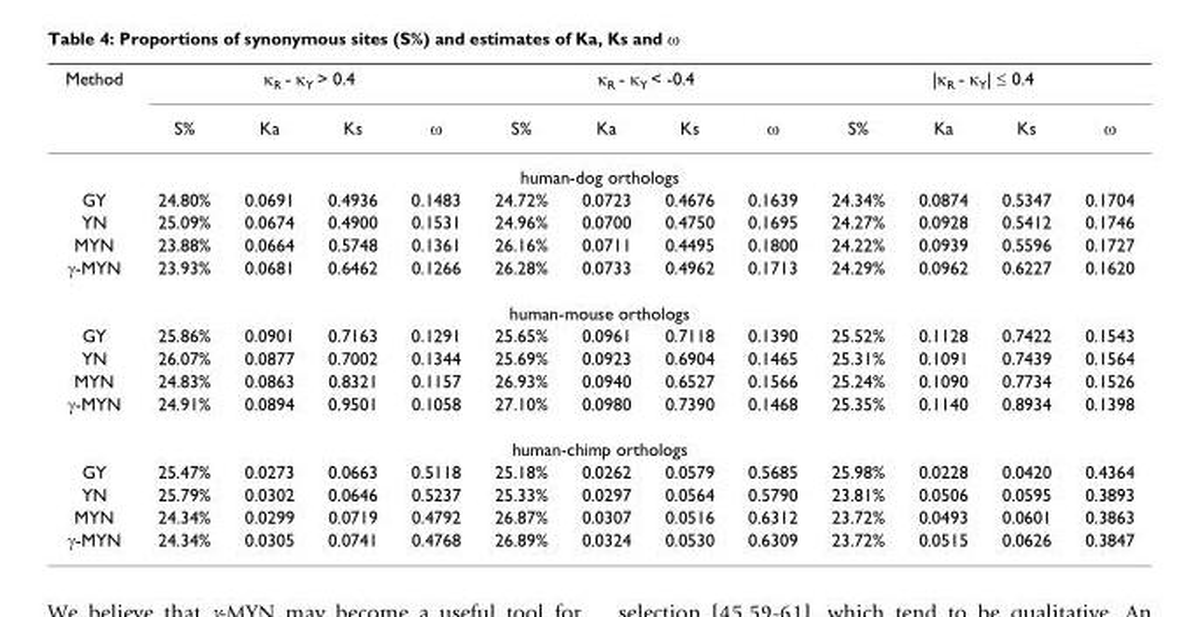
<table><thead><tr><td rowspan="2">Method</td><td colspan="4">κ<sub>R</sub> - κ<sub>Y</sub> &gt; 0.4</td><td colspan="4">κ<sub>R</sub> - κ<sub>Y</sub> &lt; -0.4</td><td colspan="4">|κ<sub>R</sub> - κ<sub>Y</sub>| ≤ 0.4</td></tr><tr><td>S%</td><td>Ka</td><td>Ks</td><td>ω</td><td>S%</td><td>Ka</td><td>Ks</td><td>ω</td><td>S%</td><td>Ka</td><td>Ks</td><td>ω</td></tr></thead><tbody><tr><td colspan="13">human-dog orthologs</td></tr><tr><td>GY</td><td>24.80%</td><td>0.0691</td><td>0.4936</td><td>0.1483</td><td>24.72%</td><td>0.0723</td><td>0.4676</td><td>0.1639</td><td>24.34%</td><td>0.0874</td><td>0.5347</td><td>0.1704</td></tr><tr><td>YN</td><td>25.09%</td><td>0.0674</td><td>0.4900</td><td>0.1531</td><td>24.96%</td><td>0.0700</td><td>0.4750</td><td>0.1695</td><td>24.27%</td><td>0.0928</td><td>0.5412</td><td>0.1746</td></tr><tr><td>MYN</td><td>23.88%</td><td>0.0664</td><td>0.5748</td><td>0.1361</td><td>26.16%</td><td>0.0711</td><td>0.4495</td><td>0.1800</td><td>24.22%</td><td>0.0939</td><td>0.5596</td><td>0.1727</td></tr><tr><td>γ-MYN</td><td>23.93%</td><td>0.0681</td><td>0.6462</td><td>0.1266</td><td>26.28%</td><td>0.0733</td><td>0.4962</td><td>0.1713</td><td>24.29%</td><td>0.0962</td><td>0.6227</td><td>0.1620</td></tr><tr><td colspan="13">human-mouse orthologs</td></tr><tr><td>GY</td><td>25.86%</td><td>0.0901</td><td>0.7163</td><td>0.1291</td><td>25.65%</td><td>0.0961</td><td>0.7118</td><td>0.1390</td><td>25.52%</td><td>0.1128</td><td>0.7422</td><td>0.1543</td></tr><tr><td>YN</td><td>26.07%</td><td>0.0877</td><td>0.7002</td><td>0.1344</td><td>25.69%</td><td>0.0923</td><td>0.6904</td><td>0.1465</td><td>25.31%</td><td>0.1091</td><td>0.7439</td><td>0.1564</td></tr><tr><td>MYN</td><td>24.83%</td><td>0.0863</td><td>0.8321</td><td>0.1157</td><td>26.93%</td><td>0.0940</td><td>0.6527</td><td>0.1566</td><td>25.24%</td><td>0.1090</td><td>0.7734</td><td>0.1526</td></tr><tr><td>γ-MYN</td><td>24.91%</td><td>0.0894</td><td>0.9501</td><td>0.1058</td><td>27.10%</td><td>0.0980</td><td>0.7390</td><td>0.1468</td><td>25.35%</td><td>0.1140</td><td>0.8934</td><td>0.1398</td></tr><tr><td colspan="13">human-chimp orthologs</td></tr><tr><td>GY</td><td>25.47%</td><td>0.0273</td><td>0.0663</td><td>0.5118</td><td>25.18%</td><td>0.0262</td><td>0.0579</td><td>0.5685</td><td>25.98%</td><td>0.0228</td><td>0.0420</td><td>0.4364</td></tr><tr><td>YN</td><td>25.79%</td><td>0.0302</td><td>0.0646</td><td>0.5237</td><td>25.33%</td><td>0.0297</td><td>0.0564</td><td>0.5790</td><td>23.81%</td><td>0.0506</td><td>0.0595</td><td>0.3893</td></tr><tr><td>MYN</td><td>24.34%</td><td>0.0299</td><td>0.0719</td><td>0.4792</td><td>26.87%</td><td>0.0307</td><td>0.0516</td><td>0.6312</td><td>23.72%</td><td>0.0493</td><td>0.0601</td><td>0.3863</td></tr><tr><td>γ-MYN</td><td>24.34%</td><td>0.0305</td><td>0.0741</td><td>0.4768</td><td>26.89%</td><td>0.0324</td><td>0.0530</td><td>0.6309</td><td>23.72%</td><td>0.0515</td><td>0.0626</td><td>0.3847</td></tr></tbody></table>